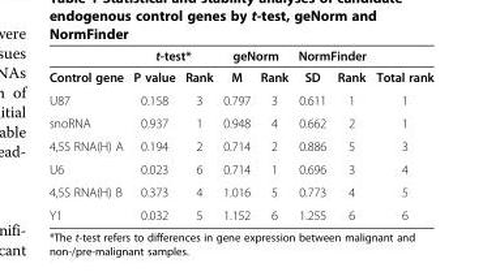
<table><thead><tr><td rowspan="2">Control gene</td><td colspan="2">t-test*</td><td colspan="2">geNorm</td><td colspan="2">NormFinder</td><td rowspan="2">Total rank</td></tr><tr><td>P value</td><td>Rank</td><td>M</td><td>Rank</td><td>SD</td><td>Rank</td></tr></thead><tbody><tr><td>U87</td><td>0.158</td><td>3</td><td>0.797</td><td>3</td><td>0.611</td><td>1</td><td>1</td></tr><tr><td>snoRNA</td><td>0.937</td><td>1</td><td>0.948</td><td>4</td><td>0.662</td><td>2</td><td>1</td></tr><tr><td>4,5S RNA(H) A</td><td>0.194</td><td>2</td><td>0.714</td><td>2</td><td>0.886</td><td>5</td><td>3</td></tr><tr><td>U6</td><td>0.023</td><td>6</td><td>0.714</td><td>1</td><td>0.696</td><td>3</td><td>4</td></tr><tr><td>4,5S RNA(H) B</td><td>0.373</td><td>4</td><td>1.016</td><td>5</td><td>0.773</td><td>4</td><td>5</td></tr><tr><td>Y1</td><td>0.032</td><td>5</td><td>1.152</td><td>6</td><td>1.255</td><td>6</td><td>6</td></tr></tbody></table>